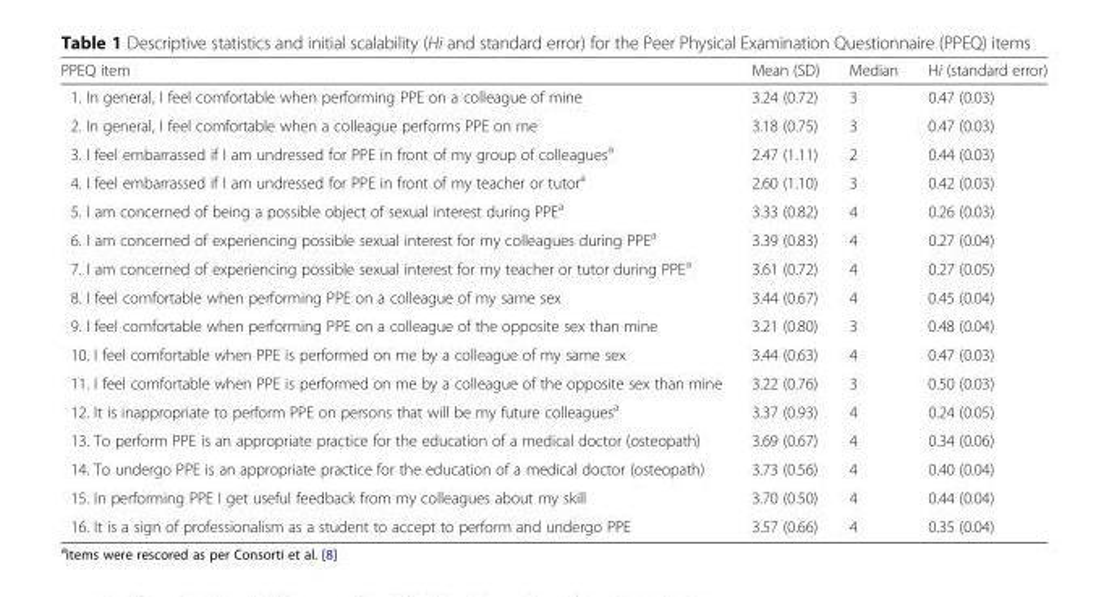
<table><thead><tr><td>PPEQ item</td><td>Mean (SD)</td><td>Median</td><td>Hi (standard error)</td></tr></thead><tbody><tr><td>1. In general, I feel comfortable when performing PPE on a colleague of mine</td><td>3.24 (0.72)</td><td>3</td><td>0.47 (0.03)</td></tr><tr><td>2. In general, I feel comfortable when a colleague performs PPE on me</td><td>3.18 (0.75)</td><td>3</td><td>0.47 (0.03)</td></tr><tr><td>3. I feel embarrassed if I am undressed for PPE in front of my group of colleagues<sup>a</sup></td><td>2.47 (1.11)</td><td>2</td><td>0.44 (0.03)</td></tr><tr><td>4. I feel embarrassed if I am undressed for PPE in front of my teacher or tutor<sup>a</sup></td><td>2.60 (1.10)</td><td>3</td><td>0.42 (0.03)</td></tr><tr><td>5. I am concerned of being a possible object of sexual interest during PPE<sup>a</sup></td><td>3.33 (0.82)</td><td>4</td><td>0.26 (0.03)</td></tr><tr><td>6. I am concerned of experiencing possible sexual interest for my colleagues during PPE<sup>a</sup></td><td>3.39 (0.83)</td><td>4</td><td>0.27 (0.04)</td></tr><tr><td>7. I am concerned of experiencing possible sexual interest for my teacher or tutor during PPE<sup>a</sup></td><td>3.61 (0.72)</td><td>4</td><td>0.27 (0.05)</td></tr><tr><td>8. I feel comfortable when performing PPE on a colleague of my same sex</td><td>3.44 (0.67)</td><td>4</td><td>0.45 (0.04)</td></tr><tr><td>9. I feel comfortable when performing PPE on a colleague of the opposite sex than mine</td><td>3.21 (0.80)</td><td>3</td><td>0.48 (0.04)</td></tr><tr><td>10. I feel comfortable when PPE is performed on me by a colleague of my same sex</td><td>3.44 (0.63)</td><td>4</td><td>0.47 (0.03)</td></tr><tr><td>11. I feel comfortable when PPE is performed on me by a colleague of the opposite sex than mine</td><td>3.22 (0.76)</td><td>3</td><td>0.50 (0.03)</td></tr><tr><td>12. It is inappropriate to perform PPE on persons that will be my future colleagues<sup>a</sup></td><td>3.37 (0.93)</td><td>4</td><td>0.24 (0.05)</td></tr><tr><td>13. To perform PPE is an appropriate practice for the education of a medical doctor (osteopath)</td><td>3.69 (0.67)</td><td>4</td><td>0.34 (0.06)</td></tr><tr><td>14. To undergo PPE is an appropriate practice for the education of a medical doctor (osteopath)</td><td>3.73 (0.56)</td><td>4</td><td>0.40 (0.04)</td></tr><tr><td>15. In performing PPE I get useful feedback from my colleagues about my skill</td><td>3.70 (0.50)</td><td>4</td><td>0.44 (0.04)</td></tr><tr><td>16. It is a sign of professionalism as a student to accept to perform and undergo PPE</td><td>3.57 (0.66)</td><td>4</td><td>0.35 (0.04)</td></tr></tbody></table>